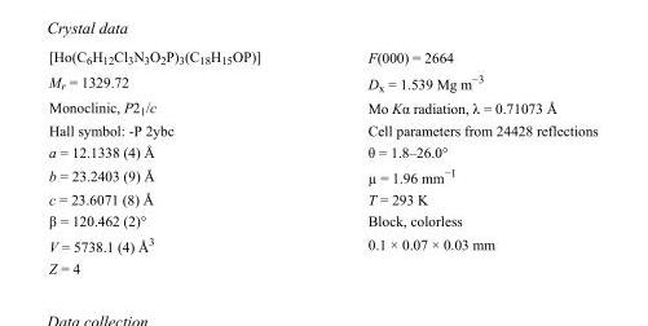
<table><tbody><tr><td>[Ho(C<sub>6</sub>H<sub>12</sub>Cl<sub>3</sub>N<sub>3</sub>O<sub>2</sub>P)<sub>3</sub>(C<sub>18</sub>H<sub>15</sub>OP)]</td><td>F(000) = 2664</td></tr><tr><td>M<sub>r</sub> = 1329.72</td><td>D<sub>x</sub> = 1.539 Mg m<sup>−3</sup></td></tr><tr><td>Monoclinic, P2<sub>1</sub>/c</td><td>Mo Kα radiation, λ = 0.71073 Å</td></tr><tr><td>Hall symbol: -P 2ybc</td><td>Cell parameters from 24428 reflections</td></tr><tr><td>a = 12.1338 (4) Å</td><td>θ = 1.8–26.0°</td></tr><tr><td>b = 23.2403 (9) Å</td><td>µ = 1.96 mm<sup>−1</sup></td></tr><tr><td>c = 23.6071 (8) Å</td><td>T = 293 K</td></tr><tr><td>β = 120.462 (2)°</td><td>Block, colorless</td></tr><tr><td>V = 5738.1 (4) Å<sup>3</sup></td><td>0.1 × 0.07 × 0.03 mm</td></tr><tr><td>Z = 4</td><td></td></tr></tbody></table>